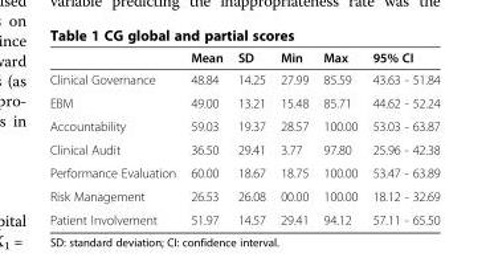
<table><thead><tr><td></td><td>Mean</td><td>SD</td><td>Min</td><td>Max</td><td>95% CI</td></tr></thead><tbody><tr><td>Clinical Governance</td><td>48.84</td><td>14.25</td><td>27.99</td><td>85.59</td><td>43.63 - 51.84</td></tr><tr><td>EBM</td><td>49.00</td><td>13.21</td><td>15.48</td><td>85.71</td><td>44.62 - 52.24</td></tr><tr><td>Accountability</td><td>59.03</td><td>19.37</td><td>28.57</td><td>100.00</td><td>53.03 - 63.87</td></tr><tr><td>Clinical Audit</td><td>36.50</td><td>29.41</td><td>3.77</td><td>97.80</td><td>25.96 - 42.38</td></tr><tr><td>Performance Evaluation</td><td>60.00</td><td>18.67</td><td>18.75</td><td>100.00</td><td>53.47 - 63.89</td></tr><tr><td>Risk Management</td><td>26.53</td><td>26.08</td><td>00.00</td><td>100.00</td><td>18.12 - 32.69</td></tr><tr><td>Patient Involvement</td><td>51.97</td><td>14.57</td><td>29.41</td><td>94.12</td><td>57.11 - 65.50</td></tr></tbody></table>